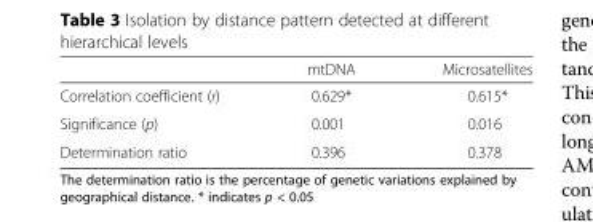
<table><thead><tr><td></td><td>mtDNA</td><td>Microsatellites</td></tr></thead><tbody><tr><td>Correlation coefficient (r)</td><td>0.629*</td><td>0.615*</td></tr><tr><td>Significance (p)</td><td>0.001</td><td>0.016</td></tr><tr><td>Determination ratio</td><td>0.396</td><td>0.378</td></tr></tbody></table>